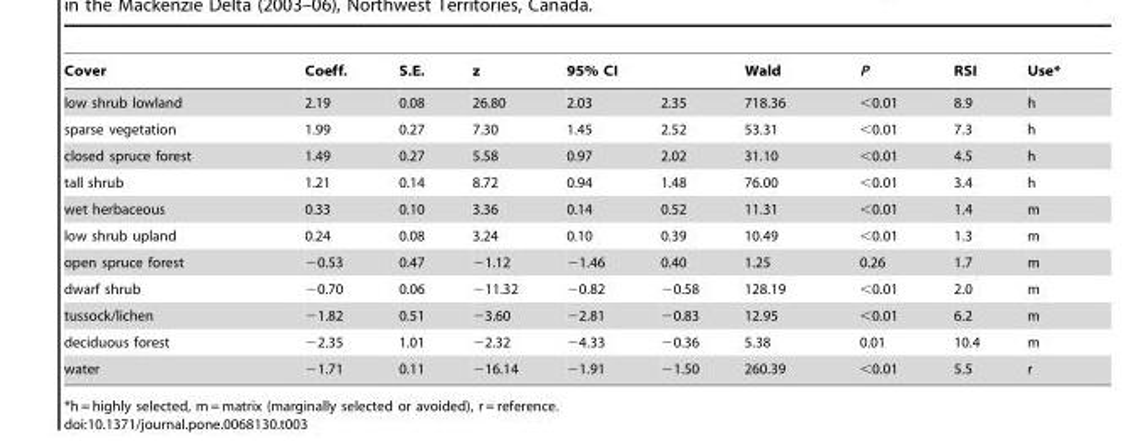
<table><thead><tr><td rowspan="2">Cover low shrub lowland</td><td rowspan="2">Coeff. 2.19</td><td rowspan="2">S.E. 0.08</td><td rowspan="2">z 26.80</td><td colspan="2">95% CI</td><td rowspan="2">Wald 718.36</td><td rowspan="2">P &lt;0.01</td><td rowspan="2">RSI 8.9</td><td rowspan="2">Use* h</td></tr><tr><td>2.03</td><td>2.35</td></tr></thead><tbody><tr><td>sparse vegetation</td><td>1.99</td><td>0.27</td><td>7.30</td><td>1.45</td><td>2.52</td><td>53.31</td><td>&lt;0.01</td><td>7.3</td><td>h</td></tr><tr><td>closed spruce forest</td><td>1.49</td><td>0.27</td><td>5.58</td><td>0.97</td><td>2.02</td><td>31.10</td><td>&lt;0.01</td><td>4.5</td><td>h</td></tr><tr><td>tall shrub</td><td>1.21</td><td>0.14</td><td>8.72</td><td>0.94</td><td>1.48</td><td>76.00</td><td>&lt;0.01</td><td>3.4</td><td>h</td></tr><tr><td>wet herbaceous</td><td>0.33</td><td>0.10</td><td>3.36</td><td>0.14</td><td>0.52</td><td>11.31</td><td>&lt;0.01</td><td>1.4</td><td>m</td></tr><tr><td>low shrub upland</td><td>0.24</td><td>0.08</td><td>3.24</td><td>0.10</td><td>0.39</td><td>10.49</td><td>&lt;0.01</td><td>1.3</td><td>m</td></tr><tr><td>open spruce forest</td><td>−0.53</td><td>0.47</td><td>−1.12</td><td>−1.46</td><td>0.40</td><td>1.25</td><td>0.26</td><td>1.7</td><td>m</td></tr><tr><td>dwarf shrub</td><td>−0.70</td><td>0.06</td><td>−11.32</td><td>−0.82</td><td>−0.58</td><td>128.19</td><td>&lt;0.01</td><td>2.0</td><td>m</td></tr><tr><td>tussock/lichen</td><td>−1.82</td><td>0.51</td><td>−3.60</td><td>−2.81</td><td>−0.83</td><td>12.95</td><td>&lt;0.01</td><td>6.2</td><td>m</td></tr><tr><td>deciduous forest</td><td>−2.35</td><td>1.01</td><td>−2.32</td><td>−4.33</td><td>−0.36</td><td>5.38</td><td>0.01</td><td>10.4</td><td>m</td></tr><tr><td>water</td><td>−1.71</td><td>0.11</td><td>−16.14</td><td>−1.91</td><td>−1.50</td><td>260.39</td><td>&lt;0.01</td><td>5.5</td><td>r</td></tr></tbody></table>